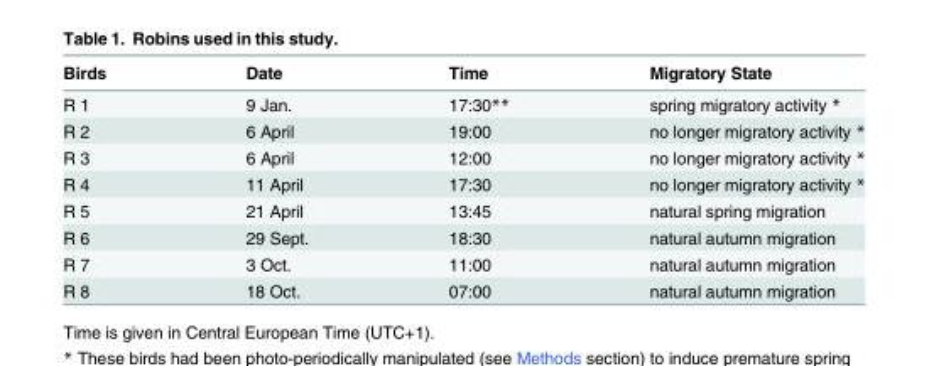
<table><thead><tr><td>Birds</td><td>Date</td><td>Time</td><td>Migratory State</td></tr></thead><tbody><tr><td>R 1</td><td>9 Jan.</td><td>17:30**</td><td>spring migratory activity *</td></tr><tr><td>R 2</td><td>6 April</td><td>19:00</td><td>no longer migratory activity *</td></tr><tr><td>R 3</td><td>6 April</td><td>12:00</td><td>no longer migratory activity *</td></tr><tr><td>R 4</td><td>11 April</td><td>17:30</td><td>no longer migratory activity *</td></tr><tr><td>R 5</td><td>21 April</td><td>13:45</td><td>natural spring migration</td></tr><tr><td>R 6</td><td>29 Sept.</td><td>18:30</td><td>natural autumn migration</td></tr><tr><td>R 7</td><td>3 Oct.</td><td>11:00</td><td>natural autumn migration</td></tr><tr><td>R 8</td><td>18 Oct.</td><td>07:00</td><td>natural autumn migration</td></tr></tbody></table>